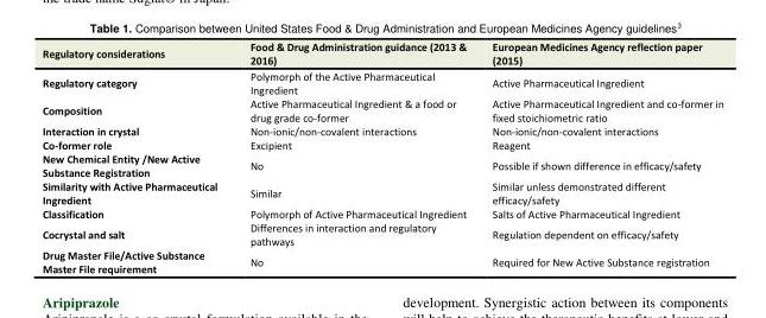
<table><tbody><tr><td>Regulatory considerations</td><td>Food &amp; Drug Administration guidance (2013 &amp; 2016)</td><td>European Medicines Agency reflection paper (2015)</td></tr><tr><td>Regulatory category</td><td>Polymorph of the Active Pharmaceutical Ingredient</td><td>Active Pharmaceutical Ingredient</td></tr><tr><td>Composition</td><td>Active Pharmaceutical Ingredient &amp; a food or drug grade co-former</td><td>Active Pharmaceutical Ingredient and co-former in fixed stoichiometric ratio</td></tr><tr><td>Interaction in crystal</td><td>Non-ionic/non-covalent interactions</td><td>Non-ionic/non-covalent interactions</td></tr><tr><td>Co-former role</td><td>Excipient</td><td>Reagent</td></tr><tr><td>New Chemical Entity /New Active Substance Registration</td><td>No</td><td>Possible if shown difference in efficacy/safety</td></tr><tr><td>Similarity with Active Pharmaceutical Ingredient</td><td>Similar</td><td>Similar unless demonstrated different efficacy/safety</td></tr><tr><td>Classification</td><td>Polymorph of Active Pharmaceutical Ingredient</td><td>Salts of Active Pharmaceutical Ingredient</td></tr><tr><td>Cocrystal and salt</td><td>Differences in interaction and regulatory pathways</td><td>Regulation dependent on efficacy/safety</td></tr><tr><td>Drug Master File/Active Substance Master File requirement</td><td>No</td><td>Required for New Active Substance registration</td></tr></tbody></table>